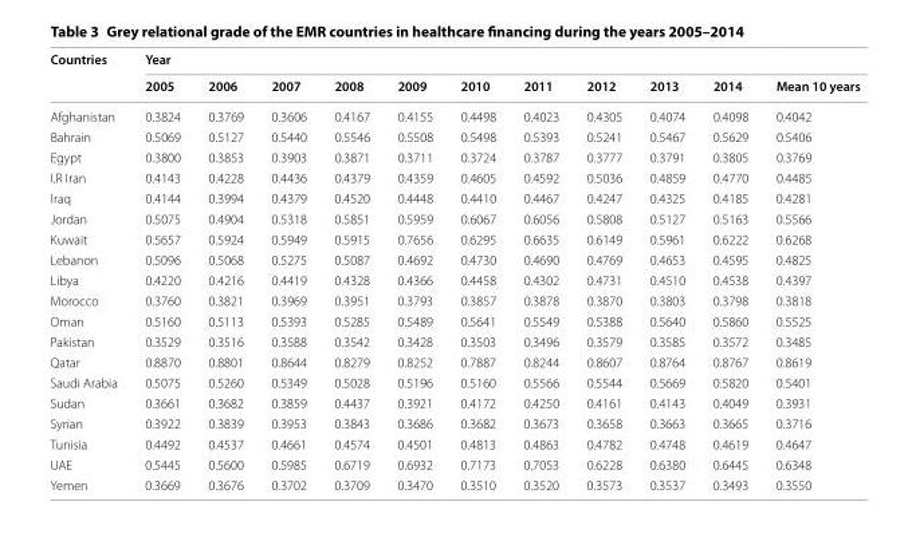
<table><thead><tr><td rowspan="2">Countries</td><td colspan="11">Year</td></tr><tr><td>2005</td><td>2006</td><td>2007</td><td>2008</td><td>2009</td><td>2010</td><td>2011</td><td>2012</td><td>2013</td><td>2014</td><td>Mean 10 years</td></tr></thead><tbody><tr><td>Afghanistan</td><td>0.3824</td><td>0.3769</td><td>0.3606</td><td>0.4167</td><td>0.4155</td><td>0.4498</td><td>0.4023</td><td>0.4305</td><td>0.4074</td><td>0.4098</td><td>0.4042</td></tr><tr><td>Bahrain</td><td>0.5069</td><td>0.5127</td><td>0.5440</td><td>0.5546</td><td>0.5508</td><td>0.5498</td><td>0.5393</td><td>0.5241</td><td>0.5467</td><td>0.5629</td><td>0.5406</td></tr><tr><td>Egypt</td><td>0.3800</td><td>0.3853</td><td>0.3903</td><td>0.3871</td><td>0.3711</td><td>0.3724</td><td>0.3787</td><td>0.3777</td><td>0.3791</td><td>0.3805</td><td>0.3769</td></tr><tr><td>I.R Iran</td><td>0.4143</td><td>0.4228</td><td>0.4436</td><td>0.4379</td><td>0.4359</td><td>0.4605</td><td>0.4592</td><td>0.5036</td><td>0.4859</td><td>0.4770</td><td>0.4485</td></tr><tr><td>Iraq</td><td>0.4144</td><td>0.3994</td><td>0.4379</td><td>0.4520</td><td>0.4448</td><td>0.4410</td><td>0.4467</td><td>0.4247</td><td>0.4325</td><td>0.4185</td><td>0.4281</td></tr><tr><td>Jordan</td><td>0.5075</td><td>0.4904</td><td>0.5318</td><td>0.5851</td><td>0.5959</td><td>0.6067</td><td>0.6056</td><td>0.5808</td><td>0.5127</td><td>0.5163</td><td>0.5566</td></tr><tr><td>Kuwait</td><td>0.5657</td><td>0.5924</td><td>0.5949</td><td>0.5915</td><td>0.7656</td><td>0.6295</td><td>0.6635</td><td>0.6149</td><td>0.5961</td><td>0.6222</td><td>0.6268</td></tr><tr><td>Lebanon</td><td>0.5096</td><td>0.5068</td><td>0.5275</td><td>0.5087</td><td>0.4692</td><td>0.4730</td><td>0.4690</td><td>0.4769</td><td>0.4653</td><td>0.4595</td><td>0.4825</td></tr><tr><td>Libya</td><td>0.4220</td><td>0.4216</td><td>0.4419</td><td>0.4328</td><td>0.4366</td><td>0.4458</td><td>0.4302</td><td>0.4731</td><td>0.4510</td><td>0.4538</td><td>0.4397</td></tr><tr><td>Morocco</td><td>0.3760</td><td>0.3821</td><td>0.3969</td><td>0.3951</td><td>0.3793</td><td>0.3857</td><td>0.3878</td><td>0.3870</td><td>0.3803</td><td>0.3798</td><td>0.3818</td></tr><tr><td>Oman</td><td>0.5160</td><td>0.5113</td><td>0.5393</td><td>0.5285</td><td>0.5489</td><td>0.5641</td><td>0.5549</td><td>0.5388</td><td>0.5640</td><td>0.5860</td><td>0.5525</td></tr><tr><td>Pakistan</td><td>0.3529</td><td>0.3516</td><td>0.3588</td><td>0.3542</td><td>0.3428</td><td>0.3503</td><td>0.3496</td><td>0.3579</td><td>0.3585</td><td>0.3572</td><td>0.3485</td></tr><tr><td>Qatar</td><td>0.8870</td><td>0.8801</td><td>0.8644</td><td>0.8279</td><td>0.8252</td><td>0.7887</td><td>0.8244</td><td>0.8607</td><td>0.8764</td><td>0.8767</td><td>0.8619</td></tr><tr><td>Saudi Arabia</td><td>0.5075</td><td>0.5260</td><td>0.5349</td><td>0.5028</td><td>0.5196</td><td>0.5160</td><td>0.5566</td><td>0.5544</td><td>0.5669</td><td>0.5820</td><td>0.5401</td></tr><tr><td>Sudan</td><td>0.3661</td><td>0.3682</td><td>0.3859</td><td>0.4437</td><td>0.3921</td><td>0.4172</td><td>0.4250</td><td>0.4161</td><td>0.4143</td><td>0.4049</td><td>0.3931</td></tr><tr><td>Syrian</td><td>0.3922</td><td>0.3839</td><td>0.3953</td><td>0.3843</td><td>0.3686</td><td>0.3682</td><td>0.3673</td><td>0.3658</td><td>0.3663</td><td>0.3665</td><td>0.3716</td></tr><tr><td>Tunisia</td><td>0.4492</td><td>0.4537</td><td>0.4661</td><td>0.4574</td><td>0.4501</td><td>0.4813</td><td>0.4863</td><td>0.4782</td><td>0.4748</td><td>0.4619</td><td>0.4647</td></tr><tr><td>UAE</td><td>0.5445</td><td>0.5600</td><td>0.5985</td><td>0.6719</td><td>0.6932</td><td>0.7173</td><td>0.7053</td><td>0.6228</td><td>0.6380</td><td>0.6445</td><td>0.6348</td></tr><tr><td>Yemen</td><td>0.3669</td><td>0.3676</td><td>0.3702</td><td>0.3709</td><td>0.3470</td><td>0.3510</td><td>0.3520</td><td>0.3573</td><td>0.3537</td><td>0.3493</td><td>0.3550</td></tr></tbody></table>